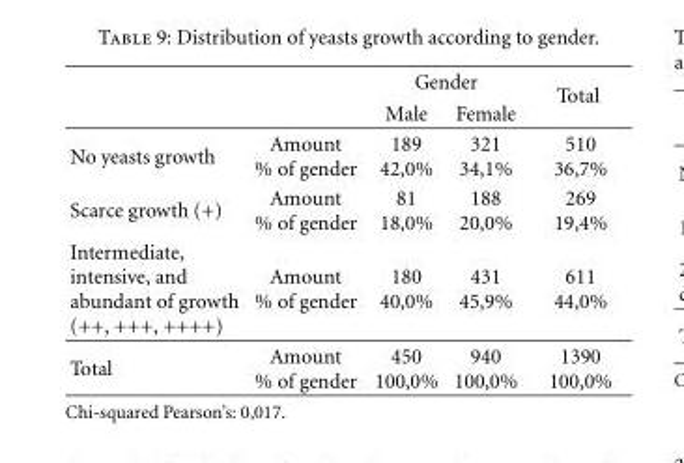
<table><thead><tr><td rowspan="2"></td><td rowspan="2"></td><td colspan="2">Gender</td><td rowspan="2">Total</td></tr><tr><td>Male</td><td>Female</td></tr></thead><tbody><tr><td>No yeasts growth</td><td>Amount % of gender</td><td>189 42,0%</td><td>321 34,1%</td><td>510 36,7%</td></tr><tr><td>Scarce growth (+)</td><td>Amount % of gender</td><td>81 18,0%</td><td>188 20,0%</td><td>269 19,4%</td></tr><tr><td>Intermediate, intensive, and abundant of growth (++, +++, ++++)</td><td>Amount % of gender</td><td>180 40,0%</td><td>431 45,9%</td><td>611 44,0%</td></tr><tr><td>Total</td><td>Amount % of gender</td><td>450 100,0%</td><td>940 100,0%</td><td>1390 100,0%</td></tr></tbody></table>